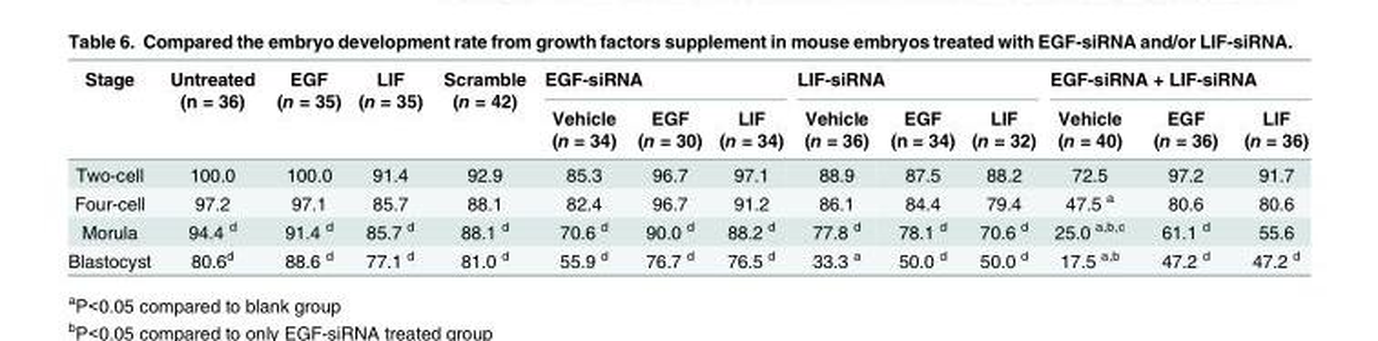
<table><thead><tr><td rowspan="2">Stage</td><td rowspan="2">Untreated (n = 36)</td><td rowspan="2">EGF (n = 35)</td><td rowspan="2">LIF (n = 35)</td><td rowspan="2">Scramble (n = 42)</td><td colspan="3">EGF-siRNA</td><td colspan="3">LIF-siRNA</td><td colspan="3">EGF-siRNA + LIF-siRNA</td></tr><tr><td>Vehicle (n = 34)</td><td>EGF (n = 30)</td><td>LIF (n = 34)</td><td>Vehicle (n = 36)</td><td>EGF (n = 34)</td><td>LIF (n = 32)</td><td>Vehicle (n = 40)</td><td>EGF (n = 36)</td><td>LIF (n = 36)</td></tr></thead><tbody><tr><td>Two-cell</td><td>100.0</td><td>100.0</td><td>91.4</td><td>92.9</td><td>85.3</td><td>96.7</td><td>97.1</td><td>88.9</td><td>87.5</td><td>88.2</td><td>72.5</td><td>97.2</td><td>91.7</td></tr><tr><td>Four-cell</td><td>97.2</td><td>97.1</td><td>85.7</td><td>88.1</td><td>82.4</td><td>96.7</td><td>91.2</td><td>86.1</td><td>84.4</td><td>79.4</td><td>47.5 <sup>a</sup></td><td>80.6</td><td>80.6</td></tr><tr><td>Morula</td><td>94.4 <sup>d</sup></td><td>91.4 <sup>d</sup></td><td>85.7 <sup>d</sup></td><td>88.1 <sup>d</sup></td><td>70.6 <sup>d</sup></td><td>90.0 <sup>d</sup></td><td>88.2 <sup>d</sup></td><td>77.8 <sup>d</sup></td><td>78.1 <sup>d</sup></td><td>70.6 <sup>d</sup></td><td>25.0 <sup>a,b,c</sup></td><td>61.1 <sup>d</sup></td><td>55.6</td></tr><tr><td>Blastocyst</td><td>80.6<sup>d</sup></td><td>88.6 <sup>d</sup></td><td>77.1 <sup>d</sup></td><td>81.0 <sup>d</sup></td><td>55.9 <sup>d</sup></td><td>76.7 <sup>d</sup></td><td>76.5 <sup>d</sup></td><td>33.3 <sup>a</sup></td><td>50.0 <sup>d</sup></td><td>50.0 <sup>d</sup></td><td>17.5 <sup>a,b</sup></td><td>47.2 <sup>d</sup></td><td>47.2 <sup>d</sup></td></tr></tbody></table>